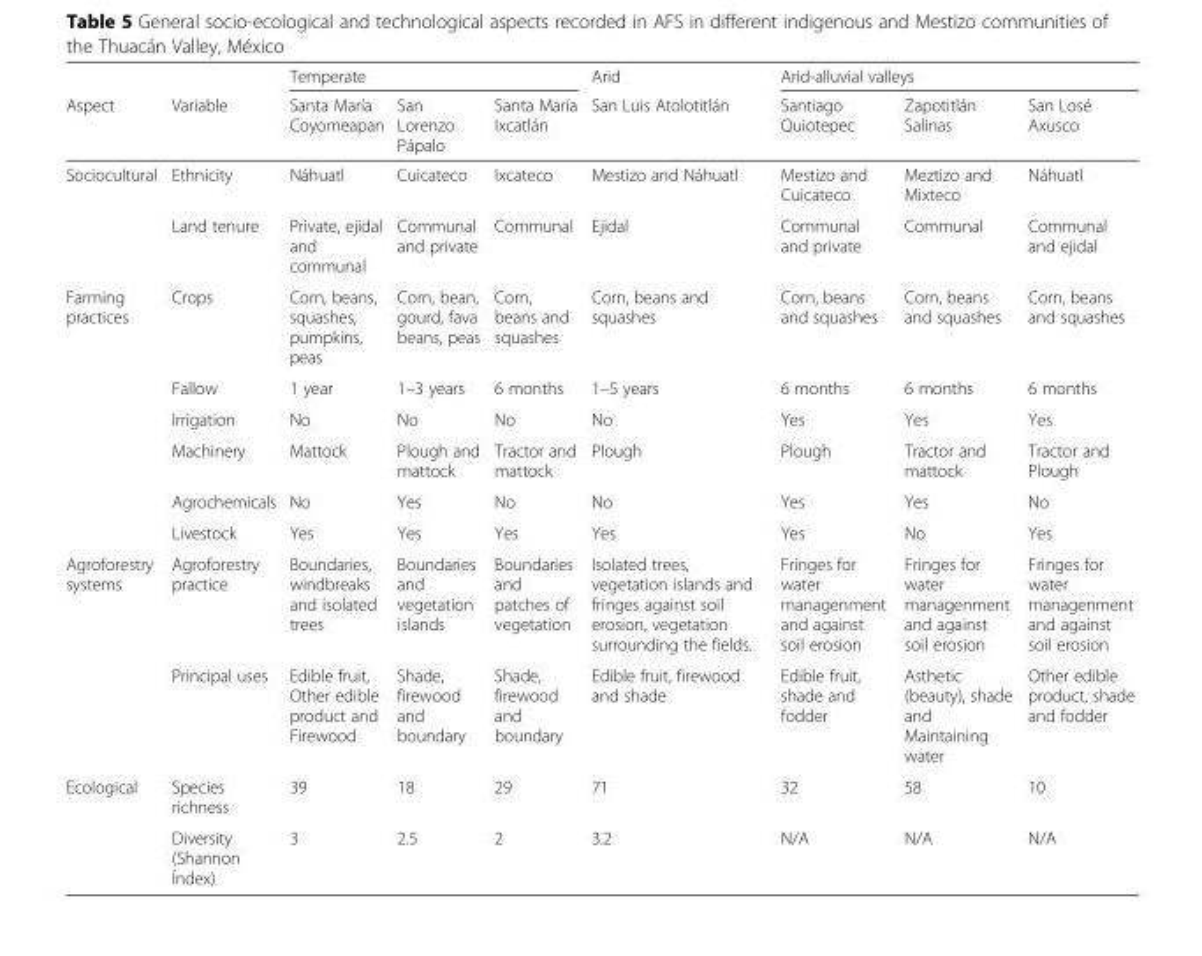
<table><thead><tr><td rowspan="2">Aspect</td><td rowspan="2">Variable</td><td colspan="3">Temperate</td><td rowspan="2">Arid San Luis Atolotitlán</td><td colspan="3">Arid-alluvial valleys</td></tr><tr><td>Santa María Coyomeapan</td><td>San Lorenzo Pápalo</td><td>Santa María Ixcatlán</td><td>Santiago Quiotepec</td><td>Zapotitlán Salinas</td><td>San Losé Axusco</td></tr></thead><tbody><tr><td rowspan="2">Sociocultural</td><td>Ethnicity</td><td>Náhuatl</td><td>Cuicateco</td><td>Ixcateco</td><td>Mestizo and Náhuatl</td><td>Mestizo and Cuicateco</td><td>Meztizo and Mixteco</td><td>Náhuatl</td></tr><tr><td>Land tenure</td><td>Private, ejidal and communal</td><td>Communal and private</td><td>Communal</td><td>Ejidal</td><td>Communal and private</td><td>Communal</td><td>Communal and ejidal</td></tr><tr><td rowspan="6">Farming practices</td><td>Crops</td><td>Corn, beans, squashes, pumpkins, peas</td><td>Corn, bean, gourd, fava beans, peas</td><td>Corn, beans and squashes</td><td>Corn, beans and squashes</td><td>Corn, beans and squashes</td><td>Corn, beans and squashes</td><td>Corn, beans and squashes</td></tr><tr><td>Fallow</td><td>1 year</td><td>1–3 years</td><td>6 months</td><td>1–5 years</td><td>6 months</td><td>6 months</td><td>6 months</td></tr><tr><td>Irrigation</td><td>No</td><td>No</td><td>No</td><td>No</td><td>Yes</td><td>Yes</td><td>Yes</td></tr><tr><td>Machinery</td><td>Mattock</td><td>Plough and mattock</td><td>Tractor and mattock</td><td>Plough</td><td>Plough</td><td>Tractor and mattock</td><td>Tractor and Plough</td></tr><tr><td>Agrochemicals</td><td>No</td><td>Yes</td><td>No</td><td>No</td><td>Yes</td><td>Yes</td><td>No</td></tr><tr><td>Livestock</td><td>Yes</td><td>Yes</td><td>Yes</td><td>Yes</td><td>Yes</td><td>No</td><td>Yes</td></tr><tr><td rowspan="2">Agroforestry systems</td><td>Agroforestry practice</td><td>Boundaries, windbreaks and isolated trees</td><td>Boundaries and vegetation islands</td><td>Boundaries and patches of vegetation</td><td>Isolated trees, vegetation islands and fringes against soil erosion, vegetation surrounding the fields.</td><td>Fringes for water managenment and against soil erosion</td><td>Fringes for water managenment and against soil erosion</td><td>Fringes for water managenment and against soil erosion</td></tr><tr><td>Principal uses</td><td>Edible fruit, Other edible product and Firewood</td><td>Shade, firewood and boundary</td><td>Shade, firewood and boundary</td><td>Edible fruit, firewood and shade</td><td>Edible fruit, shade and fodder</td><td>Asthetic (beauty), shade and Maintaining water</td><td>Other edible product, shade and fodder</td></tr><tr><td rowspan="2">Ecological</td><td>Species richness</td><td>39</td><td>18</td><td>29</td><td>71</td><td>32</td><td>58</td><td>10</td></tr><tr><td>Diversity (Shannon Índex)</td><td>3</td><td>2.5</td><td>2</td><td>3.2</td><td>N/A</td><td>N/A</td><td>N/A</td></tr></tbody></table>